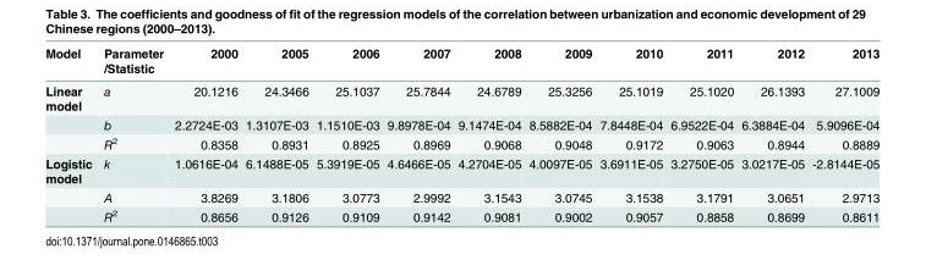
<table><thead><tr><td>Model</td><td>Parameter /Statistic</td><td>2000</td><td>2005</td><td>2006</td><td>2007</td><td>2008</td><td>2009</td><td>2010</td><td>2011</td><td>2012</td><td>2013</td></tr></thead><tbody><tr><td rowspan="3">Linear model</td><td>a</td><td>20.1216</td><td>24.3466</td><td>25.1037</td><td>25.7844</td><td>24.6789</td><td>25.3256</td><td>25.1019</td><td>25.1020</td><td>26.1393</td><td>27.1009</td></tr><tr><td>b</td><td>2.2724E-03</td><td>1.3107E-03</td><td>1.1510E-03</td><td>9.8978E-04</td><td>9.1474E-04</td><td>8.5882E-04</td><td>7.8448E-04</td><td>6.9522E-04</td><td>6.3884E-04</td><td>5.9096E-04</td></tr><tr><td>R<sup>2</sup></td><td>0.8358</td><td>0.8931</td><td>0.8925</td><td>0.8969</td><td>0.9068</td><td>0.9048</td><td>0.9172</td><td>0.9063</td><td>0.8944</td><td>0.8889</td></tr><tr><td rowspan="3">Logistic model</td><td>k</td><td>1.0616E-04</td><td>6.1488E-05</td><td>5.3919E-05</td><td>4.6466E-05</td><td>4.2704E-05</td><td>4.0097E-05</td><td>3.6911E-05</td><td>3.2750E-05</td><td>3.0217E-05</td><td>-2.8144E-05</td></tr><tr><td>A</td><td>3.8269</td><td>3.1806</td><td>3.0773</td><td>2.9992</td><td>3.1543</td><td>3.0745</td><td>3.1538</td><td>3.1791</td><td>3.0651</td><td>2.9713</td></tr><tr><td>R<sup>2</sup></td><td>0.8656</td><td>0.9126</td><td>0.9109</td><td>0.9142</td><td>0.9081</td><td>0.9002</td><td>0.9057</td><td>0.8858</td><td>0.8699</td><td>0.8611</td></tr></tbody></table>